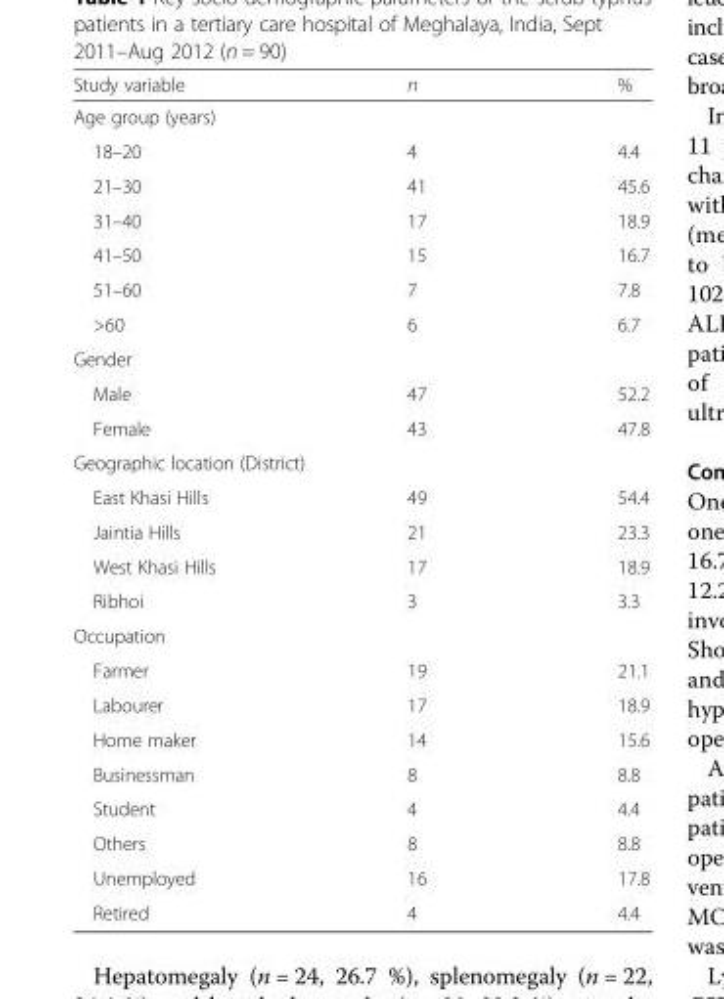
<table><thead><tr><td>Study variable</td><td>n</td><td>%</td></tr></thead><tbody><tr><td colspan="3">Age group (years)</td></tr><tr><td>18–20</td><td>4</td><td>4.4</td></tr><tr><td>21–30</td><td>41</td><td>45.6</td></tr><tr><td>31–40</td><td>17</td><td>18.9</td></tr><tr><td>41–50</td><td>15</td><td>16.7</td></tr><tr><td>51–60</td><td>7</td><td>7.8</td></tr><tr><td>&gt;60</td><td>6</td><td>6.7</td></tr><tr><td colspan="3">Gender</td></tr><tr><td>Male</td><td>47</td><td>52.2</td></tr><tr><td>Female</td><td>43</td><td>47.8</td></tr><tr><td colspan="3">Geographic location (District)</td></tr><tr><td>East Khasi Hills</td><td>49</td><td>54.4</td></tr><tr><td>Jaintia Hills</td><td>21</td><td>23.3</td></tr><tr><td>West Khasi Hills</td><td>17</td><td>18.9</td></tr><tr><td>Ribhoi</td><td>3</td><td>3.3</td></tr><tr><td colspan="3">Occupation</td></tr><tr><td>Farmer</td><td>19</td><td>21.1</td></tr><tr><td>Labourer</td><td>17</td><td>18.9</td></tr><tr><td>Home maker</td><td>14</td><td>15.6</td></tr><tr><td>Businessman</td><td>8</td><td>8.8</td></tr><tr><td>Student</td><td>4</td><td>4.4</td></tr><tr><td>Others</td><td>8</td><td>8.8</td></tr><tr><td>Unemployed</td><td>16</td><td>17.8</td></tr><tr><td>Retired</td><td>4</td><td>4.4</td></tr></tbody></table>